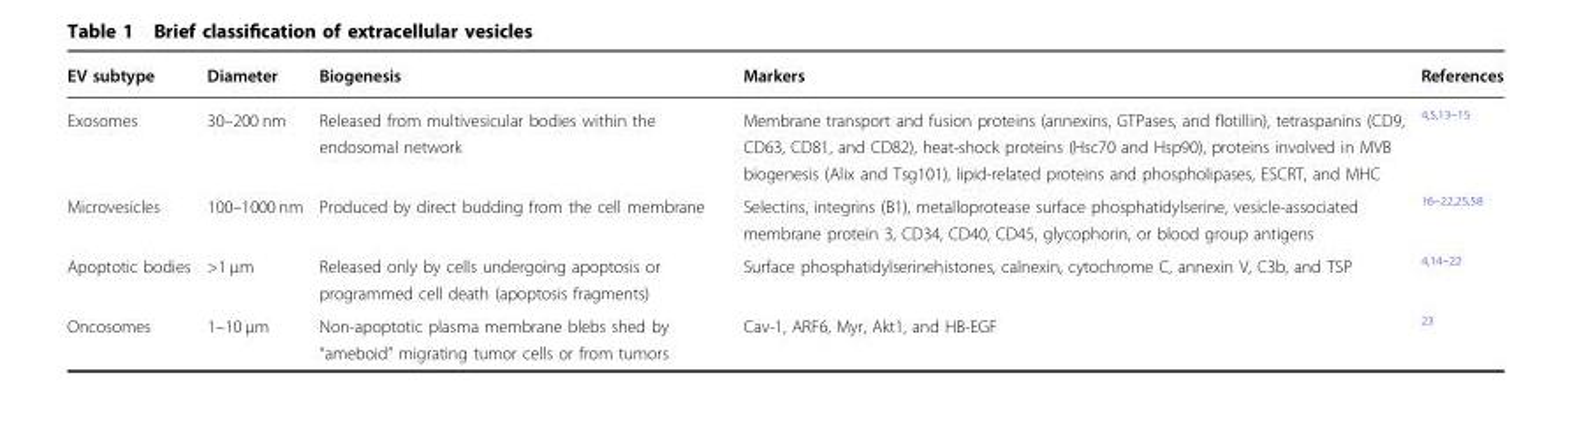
<table><thead><tr><td>EV subtype</td><td>Diameter</td><td>Biogenesis</td><td>Markers</td><td>References</td></tr></thead><tbody><tr><td>Exosomes</td><td>30–200 nm</td><td>Released from multivesicular bodies within the endosomal network</td><td>Membrane transport and fusion proteins (annexins, GTPases, and flotillin), tetraspanins (CD9, CD63, CD81, and CD82), heat-shock proteins (Hsc70 and Hsp90), proteins involved in MVB biogenesis (Alix and Tsg101), lipid-related proteins and phospholipases, ESCRT, and MHC</td><td><sup>4,5,13–15</sup></td></tr><tr><td>Microvesicles</td><td>100–1000 nm</td><td>Produced by direct budding from the cell membrane</td><td>Selectins, integrins (B1), metalloprotease surface phosphatidylserine, vesicle-associated membrane protein 3, CD34, CD40, CD45, glycophorin, or blood group antigens</td><td><sup>16–22,25,58</sup></td></tr><tr><td>Apoptotic bodies</td><td>&gt;1 µm</td><td>Released only by cells undergoing apoptosis or programmed cell death (apoptosis fragments)</td><td>Surface phosphatidylserinehistones, calnexin, cytochrome C, annexin V, C3b, and TSP</td><td><sup>4,14–22</sup></td></tr><tr><td>Oncosomes</td><td>1–10 µm</td><td>Non-apoptotic plasma membrane blebs shed by “ameboid” migrating tumor cells or from tumors</td><td>Cav-1, ARF6, Myr, Akt1, and HB‑EGF</td><td><sup>23</sup></td></tr></tbody></table>